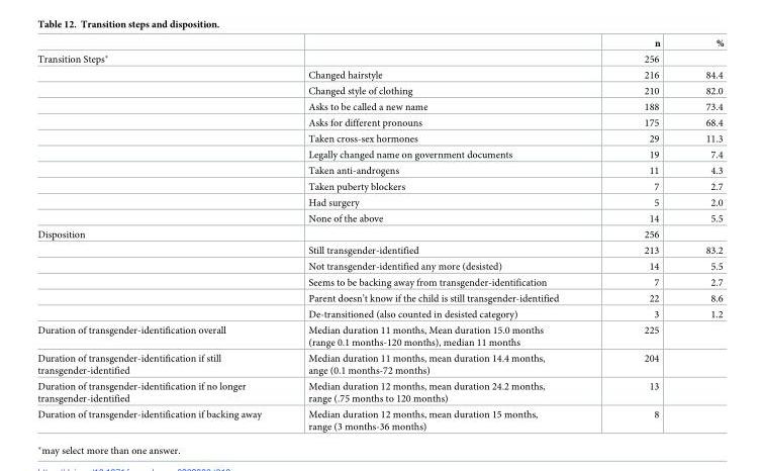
<table><thead><tr><td></td><td></td><td>n</td><td>%</td></tr></thead><tbody><tr><td rowspan="11">Transition Steps*</td><td></td><td>256</td><td></td></tr><tr><td>Changed hairstyle</td><td>216</td><td>84.4</td></tr><tr><td>Changed style of clothing</td><td>210</td><td>82.0</td></tr><tr><td>Asks to be called a new name</td><td>188</td><td>73.4</td></tr><tr><td>Asks for different pronouns</td><td>175</td><td>68.4</td></tr><tr><td>Taken cross-sex hormones</td><td>29</td><td>11.3</td></tr><tr><td>Legally changed name on government documents</td><td>19</td><td>7.4</td></tr><tr><td>Taken anti-androgens</td><td>11</td><td>4.3</td></tr><tr><td>Taken puberty blockers</td><td>7</td><td>2.7</td></tr><tr><td>Had surgery</td><td>5</td><td>2.0</td></tr><tr><td>None of the above</td><td>14</td><td>5.5</td></tr><tr><td rowspan="6">Disposition</td><td></td><td>256</td><td></td></tr><tr><td>Still transgender-identified</td><td>213</td><td>83.2</td></tr><tr><td>Not transgender-identified any more (desisted)</td><td>14</td><td>5.5</td></tr><tr><td>Seems to be backing away from transgender-identification</td><td>7</td><td>2.7</td></tr><tr><td>Parent doesn’t know if the child is still transgender-identified</td><td>22</td><td>8.6</td></tr><tr><td>De-transitioned (also counted in desisted category)</td><td>3</td><td>1.2</td></tr><tr><td>Duration of transgender-identification overall</td><td>Median duration 11 months, Mean duration 15.0 months (range 0.1 months-120 months), median 11 months</td><td>225</td><td></td></tr><tr><td>Duration of transgender-identification if still transgender-identified</td><td>Median duration 11 months, mean duration 14.4 months, ange (0.1 months-72 months)</td><td>204</td><td></td></tr><tr><td>Duration of transgender-identification if no longer transgender-identified</td><td>Median duration 12 months, mean duration 24.2 months, range (.75 months to 120 months)</td><td>13</td><td></td></tr><tr><td>Duration of transgender-identification if backing away</td><td>Median duration 12 months, mean duration 15 months, range (3 months-36 months)</td><td>8</td><td></td></tr></tbody></table>